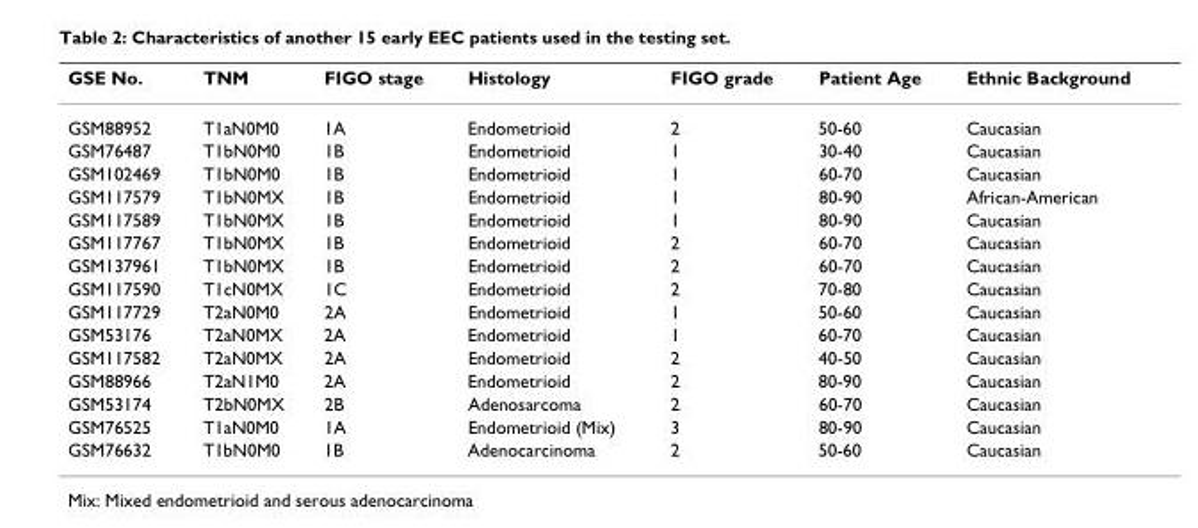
<table><thead><tr><td>GSE No.</td><td>TNM</td><td>FIGO stage</td><td>Histology</td><td>FIGO grade</td><td>Patient Age</td><td>Ethnic Background</td></tr></thead><tbody><tr><td>GSM88952</td><td>T1aN0M0</td><td>1A</td><td>Endometrioid</td><td>2</td><td>50-60</td><td>Caucasian</td></tr><tr><td>GSM76487</td><td>T1bN0M0</td><td>1B</td><td>Endometrioid</td><td>1</td><td>30-40</td><td>Caucasian</td></tr><tr><td>GSM102469</td><td>T1bN0M0</td><td>1B</td><td>Endometrioid</td><td>1</td><td>60-70</td><td>Caucasian</td></tr><tr><td>GSM117579</td><td>T1bN0MX</td><td>1B</td><td>Endometrioid</td><td>1</td><td>80-90</td><td>African-American</td></tr><tr><td>GSM117589</td><td>T1bN0MX</td><td>1B</td><td>Endometrioid</td><td>1</td><td>80-90</td><td>Caucasian</td></tr><tr><td>GSM117767</td><td>T1bN0MX</td><td>1B</td><td>Endometrioid</td><td>2</td><td>60-70</td><td>Caucasian</td></tr><tr><td>GSM137961</td><td>T1bN0MX</td><td>1B</td><td>Endometrioid</td><td>2</td><td>60-70</td><td>Caucasian</td></tr><tr><td>GSM117590</td><td>T1cN0MX</td><td>1C</td><td>Endometrioid</td><td>2</td><td>70-80</td><td>Caucasian</td></tr><tr><td>GSM117729</td><td>T2aN0M0</td><td>2A</td><td>Endometrioid</td><td>1</td><td>50-60</td><td>Caucasian</td></tr><tr><td>GSM53176</td><td>T2aN0MX</td><td>2A</td><td>Endometrioid</td><td>1</td><td>60-70</td><td>Caucasian</td></tr><tr><td>GSM117582</td><td>T2aN0MX</td><td>2A</td><td>Endometrioid</td><td>2</td><td>40-50</td><td>Caucasian</td></tr><tr><td>GSM88966</td><td>T2aN1M0</td><td>2A</td><td>Endometrioid</td><td>2</td><td>80-90</td><td>Caucasian</td></tr><tr><td>GSM53174</td><td>T2bN0MX</td><td>2B</td><td>Adenosarcoma</td><td>2</td><td>60-70</td><td>Caucasian</td></tr><tr><td>GSM76525</td><td>T1aN0M0</td><td>1A</td><td>Endometrioid (Mix)</td><td>3</td><td>80-90</td><td>Caucasian</td></tr><tr><td>GSM76632</td><td>T1bN0M0</td><td>1B</td><td>Adenocarcinoma</td><td>2</td><td>50-60</td><td>Caucasian</td></tr></tbody></table>